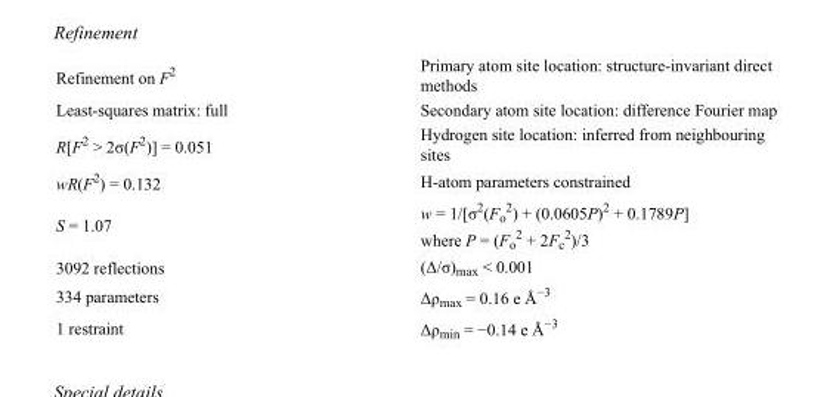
<table><tbody><tr><td>Refinement on F<sup>2</sup></td><td>Primary atom site location: structure-invariant direct methods</td></tr><tr><td>Least-squares matrix: full</td><td>Secondary atom site location: difference Fourier map</td></tr><tr><td>R[F<sup>2</sup> &gt; 2σ(F<sup>2</sup>)] = 0.051</td><td>Hydrogen site location: inferred from neighbouring sites</td></tr><tr><td>wR(F<sup>2</sup>) = 0.132</td><td>H-atom parameters constrained</td></tr><tr><td>S = 1.07</td><td>w = 1/[σ<sup>2</sup>(F<sub>o</sub> <sup>2</sup>) + (0.0605P)<sup>2</sup> + 0.1789P] where P = (F<sub>o</sub> <sup>2</sup> + 2F<sub>c</sub> <sup>2</sup>)/3</td></tr><tr><td>3092 reflections</td><td>(Δ/σ)<sub>max</sub> &lt; 0.001</td></tr><tr><td>334 parameters</td><td>Δρ<sub>max</sub> = 0.16 e Å<sup>−3</sup></td></tr><tr><td>1 restraint</td><td>Δρ<sub>min</sub> = −0.14 e Å<sup>−3</sup></td></tr></tbody></table>